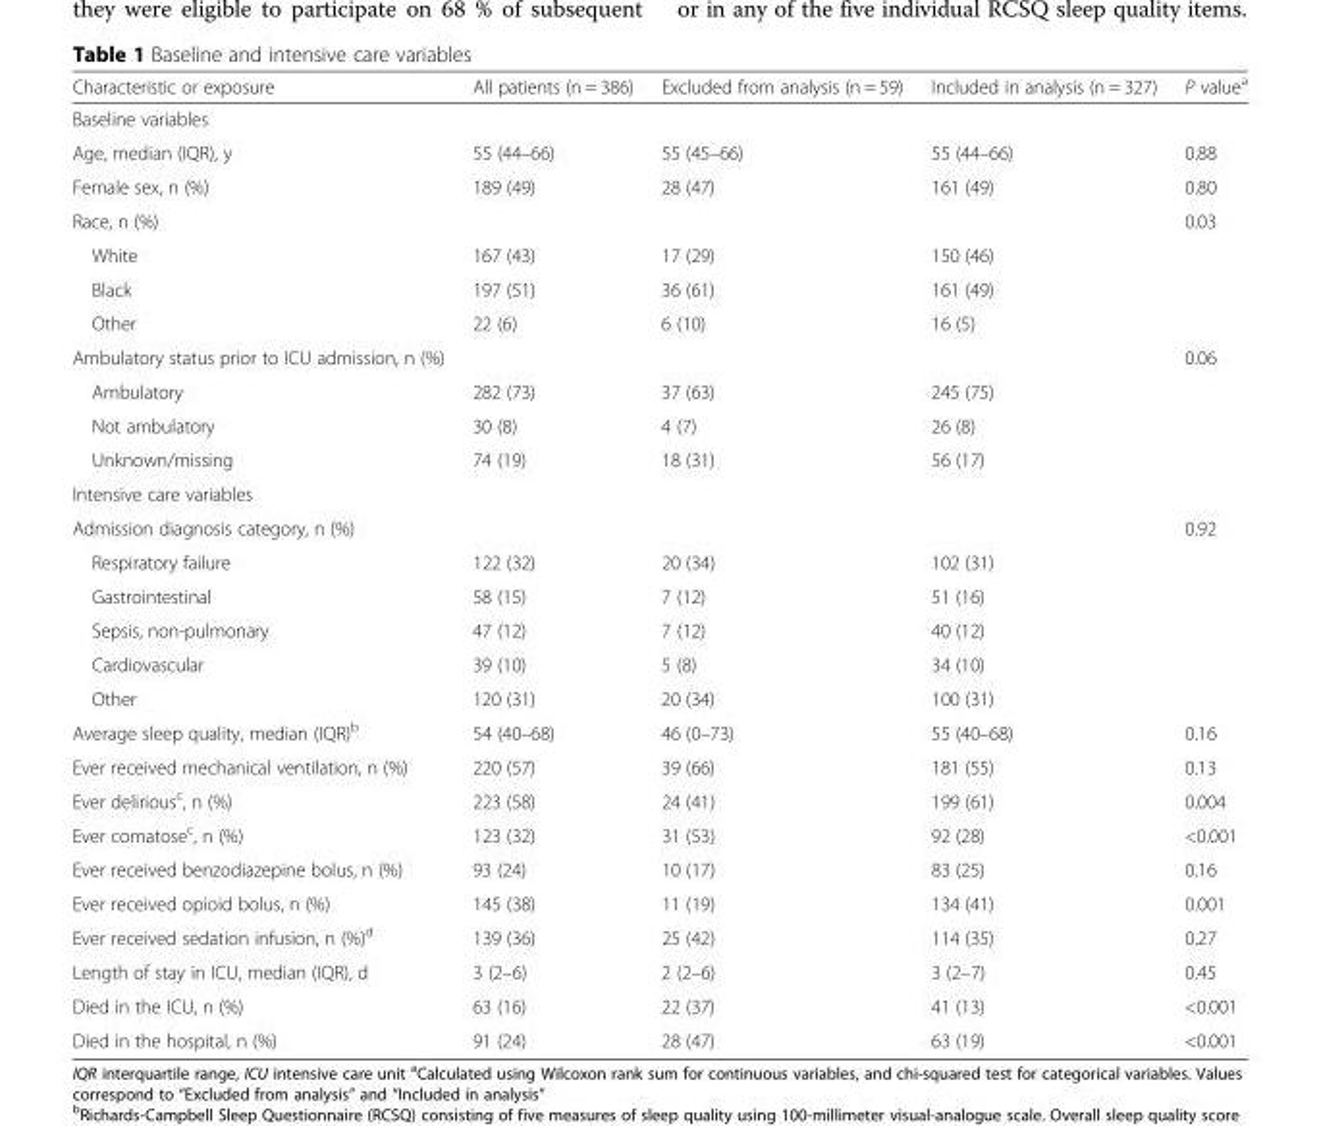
<table><thead><tr><td>Characteristic or exposure</td><td>All patients (n = 386)</td><td>Excluded from analysis (n = 59)</td><td>Included in analysis (n = 327)</td><td>P value<sup>a</sup></td></tr></thead><tbody><tr><td colspan="5">Baseline variables</td></tr><tr><td>Age, median (IQR), y</td><td>55 (44–66)</td><td>55 (45–66)</td><td>55 (44–66)</td><td>0.88</td></tr><tr><td>Female sex, n (%)</td><td>189 (49)</td><td>28 (47)</td><td>161 (49)</td><td>0.80</td></tr><tr><td>Race, n (%)</td><td></td><td></td><td></td><td>0.03</td></tr><tr><td>White</td><td>167 (43)</td><td>17 (29)</td><td>150 (46)</td><td></td></tr><tr><td>Black</td><td>197 (51)</td><td>36 (61)</td><td>161 (49)</td><td></td></tr><tr><td>Other</td><td>22 (6)</td><td>6 (10)</td><td>16 (5)</td><td></td></tr><tr><td>Ambulatory status prior to ICU admission, n (%)</td><td></td><td></td><td></td><td>0.06</td></tr><tr><td>Ambulatory</td><td>282 (73)</td><td>37 (63)</td><td>245 (75)</td><td></td></tr><tr><td>Not ambulatory</td><td>30 (8)</td><td>4 (7)</td><td>26 (8)</td><td></td></tr><tr><td>Unknown/missing</td><td>74 (19)</td><td>18 (31)</td><td>56 (17)</td><td></td></tr><tr><td colspan="5">Intensive care variables</td></tr><tr><td>Admission diagnosis category, n (%)</td><td></td><td></td><td></td><td>0.92</td></tr><tr><td>Respiratory failure</td><td>122 (32)</td><td>20 (34)</td><td>102 (31)</td><td></td></tr><tr><td>Gastrointestinal</td><td>58 (15)</td><td>7 (12)</td><td>51 (16)</td><td></td></tr><tr><td>Sepsis, non-pulmonary</td><td>47 (12)</td><td>7 (12)</td><td>40 (12)</td><td></td></tr><tr><td>Cardiovascular</td><td>39 (10)</td><td>5 (8)</td><td>34 (10)</td><td></td></tr><tr><td>Other</td><td>120 (31)</td><td>20 (34)</td><td>100 (31)</td><td></td></tr><tr><td>Average sleep quality, median (IQR)<sup>b</sup></td><td>54 (40–68)</td><td>46 (0–73)</td><td>55 (40–68)</td><td>0.16</td></tr><tr><td>Ever received mechanical ventilation, n (%)</td><td>220 (57)</td><td>39 (66)</td><td>181 (55)</td><td>0.13</td></tr><tr><td>Ever delirious<sup>c</sup>, n (%)</td><td>223 (58)</td><td>24 (41)</td><td>199 (61)</td><td>0.004</td></tr><tr><td>Ever comatose<sup>c</sup>, n (%)</td><td>123 (32)</td><td>31 (53)</td><td>92 (28)</td><td>&lt;0.001</td></tr><tr><td>Ever received benzodiazepine bolus, n (%)</td><td>93 (24)</td><td>10 (17)</td><td>83 (25)</td><td>0.16</td></tr><tr><td>Ever received opioid bolus, n (%)</td><td>145 (38)</td><td>11 (19)</td><td>134 (41)</td><td>0.001</td></tr><tr><td>Ever received sedation infusion, n (%)<sup>d</sup></td><td>139 (36)</td><td>25 (42)</td><td>114 (35)</td><td>0.27</td></tr><tr><td>Length of stay in ICU, median (IQR), d</td><td>3 (2–6)</td><td>2 (2–6)</td><td>3 (2–7)</td><td>0.45</td></tr><tr><td>Died in the ICU, n (%)</td><td>63 (16)</td><td>22 (37)</td><td>41 (13)</td><td>&lt;0.001</td></tr><tr><td>Died in the hospital, n (%)</td><td>91 (24)</td><td>28 (47)</td><td>63 (19)</td><td>&lt;0.001</td></tr></tbody></table>